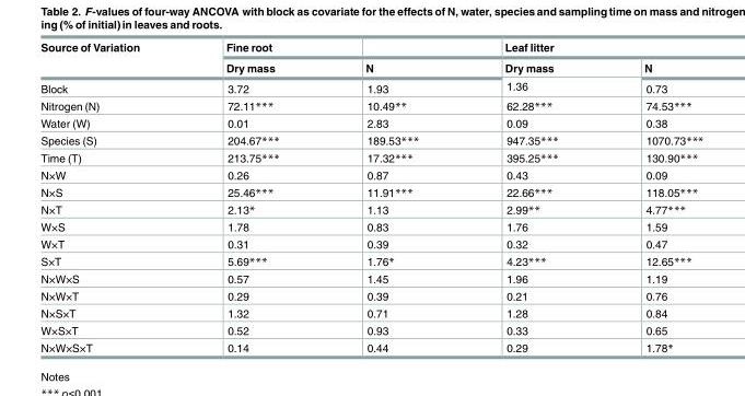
<table><thead><tr><td rowspan="2">Source of Variation</td><td rowspan="2">Fine root Dry mass</td><td rowspan="2">N</td><td colspan="2">Leaf litter</td></tr><tr><td>Dry mass</td><td>N</td></tr></thead><tbody><tr><td>Block</td><td>3.72</td><td>1.93</td><td>1.36</td><td>0.73</td></tr><tr><td>Nitrogen (N)</td><td>72.11***</td><td>10.49**</td><td>62.28***</td><td>74.53***</td></tr><tr><td>Water (W)</td><td>0.01</td><td>2.83</td><td>0.09</td><td>0.38</td></tr><tr><td>Species (S)</td><td>204.67***</td><td>189.53***</td><td>947.35***</td><td>1070.73***</td></tr><tr><td>Time (T)</td><td>213.75***</td><td>17.32***</td><td>395.25***</td><td>130.90***</td></tr><tr><td>N×W</td><td>0.26</td><td>0.87</td><td>0.43</td><td>0.09</td></tr><tr><td>N×S</td><td>25.46***</td><td>11.91***</td><td>22.66***</td><td>118.05***</td></tr><tr><td>N×T</td><td>2.13*</td><td>1.13</td><td>2.99**</td><td>4.77***</td></tr><tr><td>W×S</td><td>1.78</td><td>0.83</td><td>1.76</td><td>1.59</td></tr><tr><td>W×T</td><td>0.31</td><td>0.39</td><td>0.32</td><td>0.47</td></tr><tr><td>S×T</td><td>5.69***</td><td>1.76*</td><td>4.23***</td><td>12.65***</td></tr><tr><td>N×W×S</td><td>0.57</td><td>1.45</td><td>1.96</td><td>1.19</td></tr><tr><td>N×W×T</td><td>0.29</td><td>0.39</td><td>0.21</td><td>0.76</td></tr><tr><td>N×S×T</td><td>1.32</td><td>0.71</td><td>1.28</td><td>0.84</td></tr><tr><td>W×S×T</td><td>0.52</td><td>0.93</td><td>0.33</td><td>0.65</td></tr><tr><td>N×W×S×T</td><td>0.14</td><td>0.44</td><td>0.29</td><td>1.78*</td></tr></tbody></table>